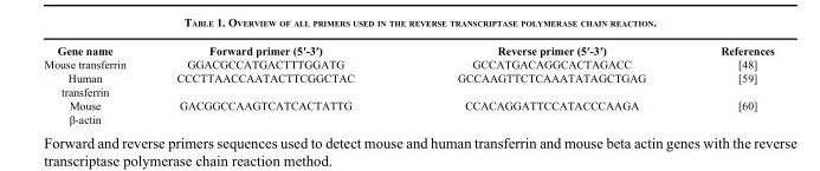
<table><tbody><tr><td>Gene name</td><td>Forward primer (5′-3′)</td><td>Reverse primer (5′-3′)</td><td>References</td></tr><tr><td>Mouse transferrin</td><td>GGACGCCATGACTTTGGATG</td><td>GCCATGACAGGCACTAGACC</td><td>[48]</td></tr><tr><td>Human transferrin</td><td>CCCTTAACCAATACTTCGGCTAC</td><td>GCCAAGTTCTCAAATATAGCTGAG</td><td>[59]</td></tr><tr><td>Mouse β-actin</td><td>GACGGCCAAGTCATCACTATTG</td><td>CCACAGGATTCCATACCCAAGA</td><td>[60]</td></tr></tbody></table>